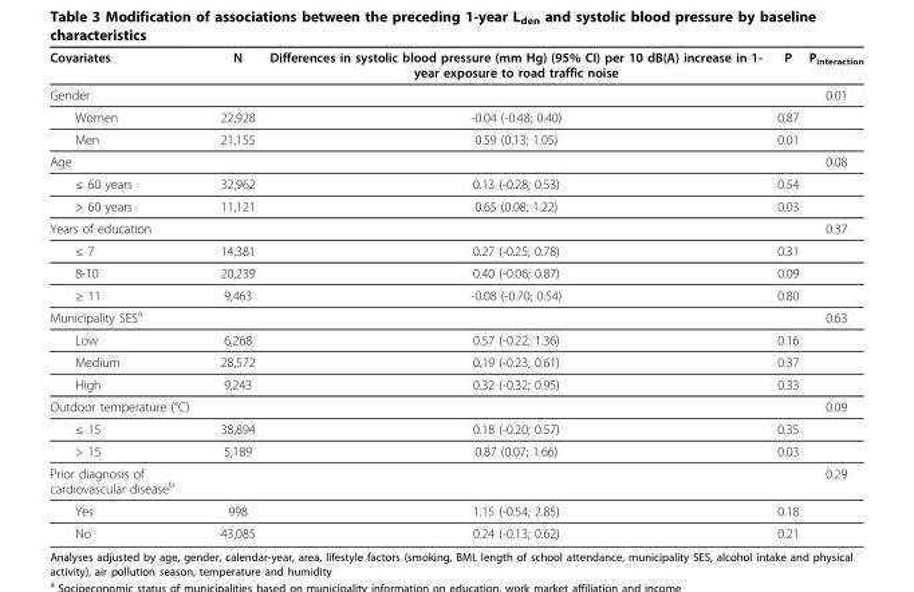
<table><thead><tr><td>Covariates</td><td>N</td><td>Differences in systolic blood pressure (mm Hg) (95% CI) per 10 dB(A) increase in 1- year exposure to road traffic noise</td><td>P</td><td>P<sub>interaction</sub></td></tr></thead><tbody><tr><td>Gender</td><td></td><td></td><td></td><td>0.01</td></tr><tr><td>Women</td><td>22,928</td><td>-0.04 (-0.48; 0.40)</td><td>0.87</td><td></td></tr><tr><td>Men</td><td>21,155</td><td>0.59 (0.13; 1.05)</td><td>0.01</td><td></td></tr><tr><td>Age</td><td></td><td></td><td></td><td>0.08</td></tr><tr><td>≤ 60 years</td><td>32,962</td><td>0.13 (-0.28; 0.53)</td><td>0.54</td><td></td></tr><tr><td>&gt; 60 years</td><td>11,121</td><td>0.65 (0.08; 1.22)</td><td>0.03</td><td></td></tr><tr><td>Years of education</td><td></td><td></td><td></td><td>0.37</td></tr><tr><td>≤ 7</td><td>14,381</td><td>0.27 (-0.25; 0.78)</td><td>0.31</td><td></td></tr><tr><td>8-10</td><td>20,239</td><td>0.40 (-0.06; 0.87)</td><td>0.09</td><td></td></tr><tr><td>≥ 11</td><td>9,463</td><td>-0.08 (-0.70; 0.54)</td><td>0.80</td><td></td></tr><tr><td>Municipality SES<sup>a</sup></td><td></td><td></td><td></td><td>0.63</td></tr><tr><td>Low</td><td>6,268</td><td>0.57 (-0.22; 1.36)</td><td>0.16</td><td></td></tr><tr><td>Medium</td><td>28,572</td><td>0.19 (-0.23; 0.61)</td><td>0.37</td><td></td></tr><tr><td>High</td><td>9,243</td><td>0.32 (-0.32; 0.95)</td><td>0.33</td><td></td></tr><tr><td>Outdoor temperature (°C)</td><td></td><td></td><td></td><td>0.09</td></tr><tr><td>≤ 15</td><td>38,894</td><td>0.18 (-0.20; 0.57)</td><td>0.35</td><td></td></tr><tr><td>&gt; 15</td><td>5,189</td><td>0.87 (0.07; 1.66)</td><td>0.03</td><td></td></tr><tr><td>Prior diagnosis of cardiovascular disease<sup>b</sup></td><td></td><td></td><td></td><td>0.29</td></tr><tr><td>Yes</td><td>998</td><td>1.15 (-0.54; 2.85)</td><td>0.18</td><td></td></tr><tr><td>No</td><td>43,085</td><td>0.24 (-0.13; 0.62)</td><td>0.21</td><td></td></tr></tbody></table>